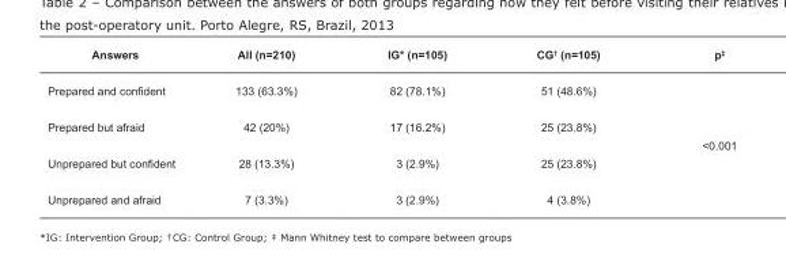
<table><tbody><tr><td>Answers</td><td>All (n=210)</td><td>IG* (n=105)</td><td>CG<sup>†</sup> (n=105)</td><td>p<sup>‡</sup></td></tr><tr><td>Prepared and confident</td><td>133 (63.3%)</td><td>82 (78.1%)</td><td>51 (48.6%)</td><td rowspan="4">&lt;0.001</td></tr><tr><td>Prepared but afraid</td><td>42 (20%)</td><td>17 (16.2%)</td><td>25 (23.8%)</td></tr><tr><td>Unprepared but confident</td><td>28 (13.3%)</td><td>3 (2.9%)</td><td>25 (23.8%)</td></tr><tr><td>Unprepared and afraid</td><td>7 (3.3%)</td><td>3 (2.9%)</td><td>4 (3.8%)</td></tr></tbody></table>